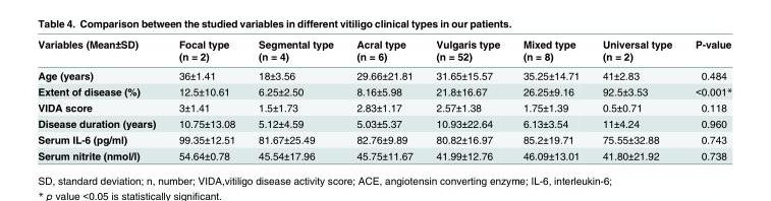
<table><thead><tr><td>Variables (Mean±SD)</td><td>Focal type (n = 2)</td><td>Segmental type (n = 4)</td><td>Acral type (n = 6)</td><td>Vulgaris type (n = 52)</td><td>Mixed type (n = 8)</td><td>Universal type (n = 2)</td><td>P-value</td></tr></thead><tbody><tr><td>Age (years)</td><td>36±1.41</td><td>18±3.56</td><td>29.66±21.81</td><td>31.65±15.57</td><td>35.25±14.71</td><td>41±2.83</td><td>0.484</td></tr><tr><td>Extent of disease (%)</td><td>12.5±10.61</td><td>6.25±2.50</td><td>8.16±5.98</td><td>21.8±16.67</td><td>26.25±9.16</td><td>92.5±3.53</td><td>&lt;0.001*</td></tr><tr><td>VIDA score</td><td>3±1.41</td><td>1.5±1.73</td><td>2.83±1.17</td><td>2.57±1.38</td><td>1.75±1.39</td><td>0.5±0.71</td><td>0.118</td></tr><tr><td>Disease duration (years)</td><td>10.75±13.08</td><td>5.12±4.59</td><td>5.03±5.37</td><td>10.93±22.64</td><td>6.13±3.54</td><td>11±4.24</td><td>0.960</td></tr><tr><td>Serum IL-6 (pg/ml)</td><td>99.35±12.51</td><td>81.67±25.49</td><td>82.76±9.89</td><td>80.82±16.97</td><td>85.2±19.71</td><td>75.55±32.88</td><td>0.743</td></tr><tr><td>Serum nitrite (nmol/l)</td><td>54.64±0.78</td><td>45.54±17.96</td><td>45.75±11.67</td><td>41.99±12.76</td><td>46.09±13.01</td><td>41.80±21.92</td><td>0.738</td></tr></tbody></table>